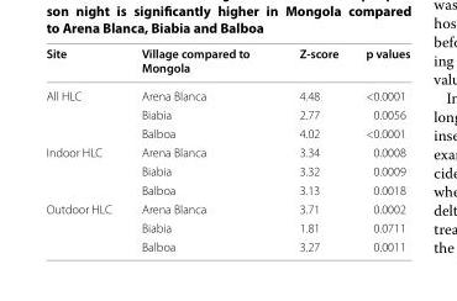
<table><thead><tr><td>Site</td><td>Village compared to Mongola</td><td>Z‑score</td><td>p values</td></tr></thead><tbody><tr><td rowspan="3">All HLC</td><td>Arena Blanca</td><td>4.48</td><td>&lt;0.0001</td></tr><tr><td>Biabia</td><td>2.77</td><td>0.0056</td></tr><tr><td>Balboa</td><td>4.02</td><td>&lt;0.0001</td></tr><tr><td rowspan="3">Indoor HLC</td><td>Arena Blanca</td><td>3.34</td><td>0.0008</td></tr><tr><td>Biabia</td><td>3.32</td><td>0.0009</td></tr><tr><td>Balboa</td><td>3.13</td><td>0.0018</td></tr><tr><td rowspan="3">Outdoor HLC</td><td>Arena Blanca</td><td>3.71</td><td>0.0002</td></tr><tr><td>Biabia</td><td>1.81</td><td>0.0711</td></tr><tr><td>Balboa</td><td>3.27</td><td>0.0011</td></tr></tbody></table>